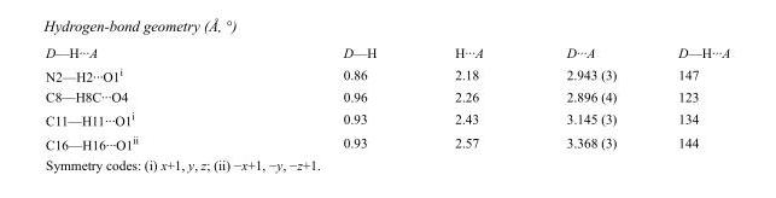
<table><tbody><tr><td>D—H···A</td><td>D—H</td><td>H···A</td><td>D···A</td><td>D—H···A</td></tr><tr><td>N2—H2···O1<sup>i</sup></td><td>0.86</td><td>2.18</td><td>2.943 (3)</td><td>147</td></tr><tr><td>C8—H8C···O4</td><td>0.96</td><td>2.26</td><td>2.896 (4)</td><td>123</td></tr><tr><td>C11—H11···O1<sup>i</sup></td><td>0.93</td><td>2.43</td><td>3.145 (3)</td><td>134</td></tr><tr><td>C16—H16···O1<sup>ii</sup></td><td>0.93</td><td>2.57</td><td>3.368 (3)</td><td>144</td></tr></tbody></table>